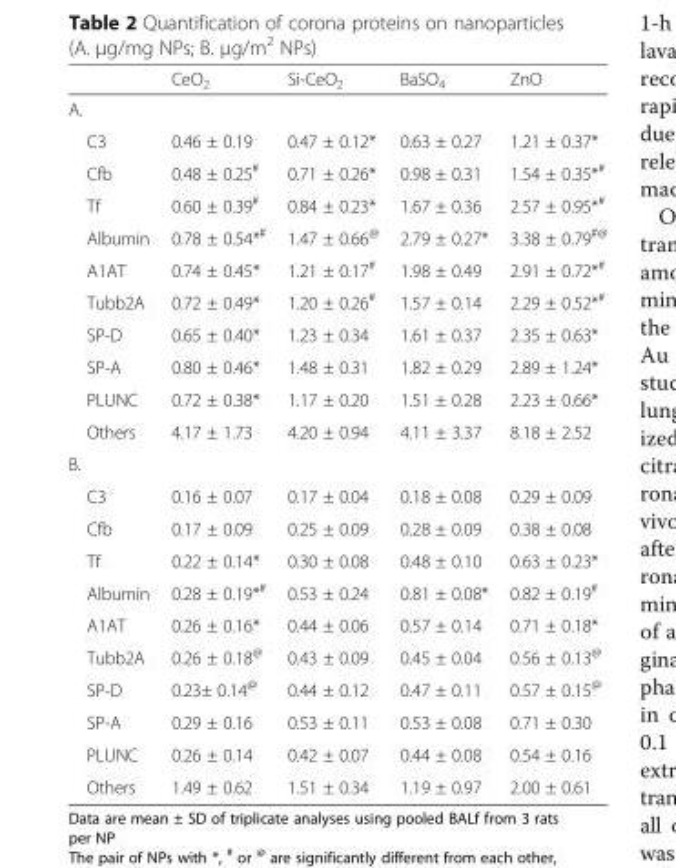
<table><thead><tr><td></td><td>CeO<sub>2</sub></td><td>Si-CeO<sub>2</sub></td><td>BaSO<sub>4</sub></td><td>ZnO</td></tr></thead><tbody><tr><td colspan="5">A.</td></tr><tr><td>C3</td><td>0.46 ± 0.19</td><td>0.47 ± 0.12*</td><td>0.63 ± 0.27</td><td>1.21 ± 0.37*</td></tr><tr><td>Cfb</td><td>0.48 ± 0.25<sup>#</sup></td><td>0.71 ± 0.26*</td><td>0.98 ± 0.31</td><td>1.54 ± 0.35*<sup>#</sup></td></tr><tr><td>Tf</td><td>0.60 ± 0.39<sup>#</sup></td><td>0.84 ± 0.23*</td><td>1.67 ± 0.36</td><td>2.57 ± 0.95*<sup>#</sup></td></tr><tr><td>Albumin</td><td>0.78 ± 0.54*<sup>#</sup></td><td>1.47 ± 0.66<sup>@</sup></td><td>2.79 ± 0.27*</td><td>3.38 ± 0.79<sup>#@</sup></td></tr><tr><td>A1AT</td><td>0.74 ± 0.45*</td><td>1.21 ± 0.17<sup>#</sup></td><td>1.98 ± 0.49</td><td>2.91 ± 0.72*<sup>#</sup></td></tr><tr><td>Tubb2A</td><td>0.72 ± 0.49*</td><td>1.20 ± 0.26<sup>#</sup></td><td>1.57 ± 0.14</td><td>2.29 ± 0.52*<sup>#</sup></td></tr><tr><td>SP-D</td><td>0.65 ± 0.40*</td><td>1.23 ± 0.34</td><td>1.61 ± 0.37</td><td>2.35 ± 0.63*</td></tr><tr><td>SP-A</td><td>0.80 ± 0.46*</td><td>1.48 ± 0.31</td><td>1.82 ± 0.29</td><td>2.89 ± 1.24*</td></tr><tr><td>PLUNC</td><td>0.72 ± 0.38*</td><td>1.17 ± 0.20</td><td>1.51 ± 0.28</td><td>2.23 ± 0.66*</td></tr><tr><td>Others</td><td>4.17 ± 1.73</td><td>4.20 ± 0.94</td><td>4.11 ± 3.37</td><td>8.18 ± 2.52</td></tr><tr><td colspan="5">B.</td></tr><tr><td>C3</td><td>0.16 ± 0.07</td><td>0.17 ± 0.04</td><td>0.18 ± 0.08</td><td>0.29 ± 0.09</td></tr><tr><td>Cfb</td><td>0.17 ± 0.09</td><td>0.25 ± 0.09</td><td>0.28 ± 0.09</td><td>0.38 ± 0.08</td></tr><tr><td>Tf</td><td>0.22 ± 0.14*</td><td>0.30 ± 0.08</td><td>0.48 ± 0.10</td><td>0.63 ± 0.23*</td></tr><tr><td>Albumin</td><td>0.28 ± 0.19*<sup>#</sup></td><td>0.53 ± 0.24</td><td>0.81 ± 0.08*</td><td>0.82 ± 0.19<sup>#</sup></td></tr><tr><td>A1AT</td><td>0.26 ± 0.16*</td><td>0.44 ± 0.06</td><td>0.57 ± 0.14</td><td>0.71 ± 0.18*</td></tr><tr><td>Tubb2A</td><td>0.26 ± 0.18<sup>@</sup></td><td>0.43 ± 0.09</td><td>0.45 ± 0.04</td><td>0.56 ± 0.13<sup>@</sup></td></tr><tr><td>SP-D</td><td>0.23± 0.14<sup>@</sup></td><td>0.44 ± 0.12</td><td>0.47 ± 0.11</td><td>0.57 ± 0.15<sup>@</sup></td></tr><tr><td>SP-A</td><td>0.29 ± 0.16</td><td>0.53 ± 0.11</td><td>0.53 ± 0.08</td><td>0.71 ± 0.30</td></tr><tr><td>PLUNC</td><td>0.26 ± 0.14</td><td>0.42 ± 0.07</td><td>0.44 ± 0.08</td><td>0.54 ± 0.16</td></tr><tr><td>Others</td><td>1.49 ± 0.62</td><td>1.51 ± 0.34</td><td>1.19 ± 0.97</td><td>2.00 ± 0.61</td></tr></tbody></table>